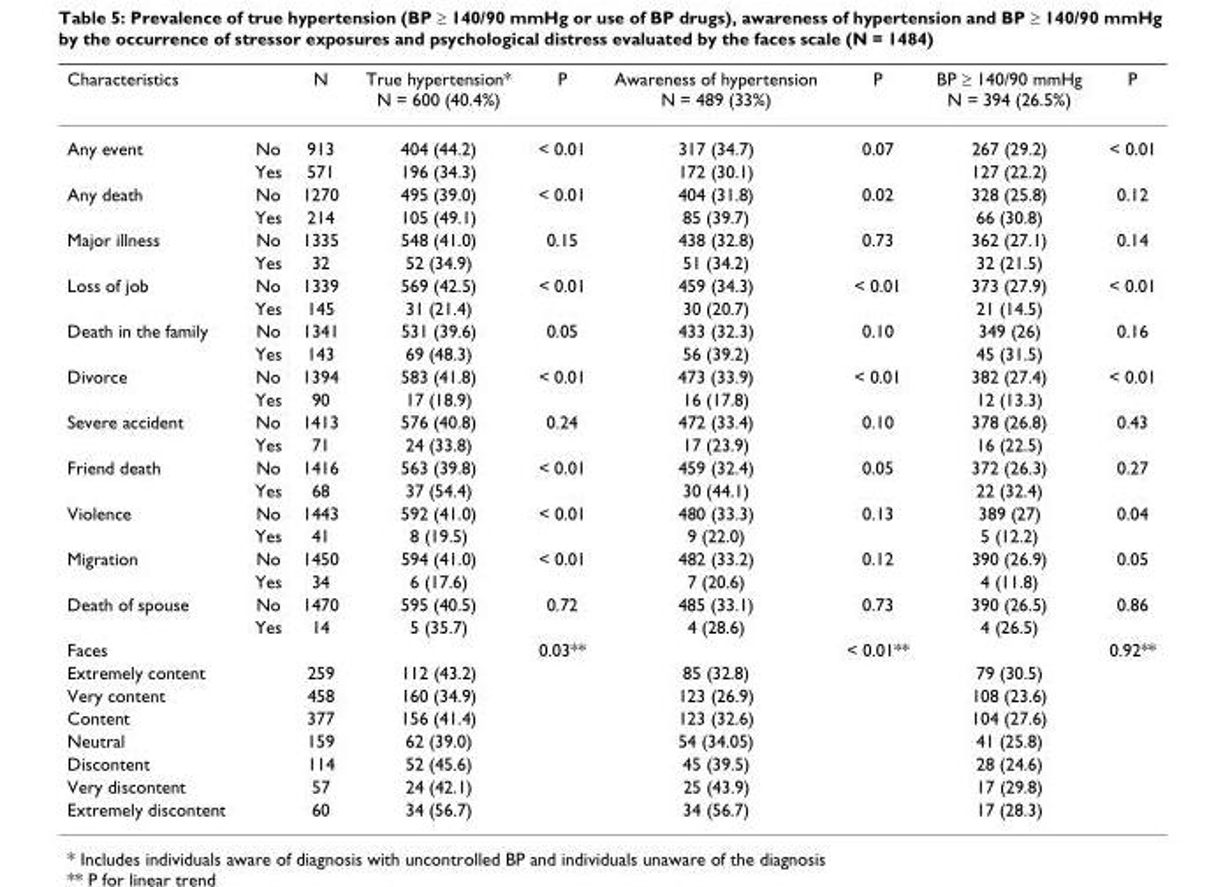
<table><thead><tr><td>Characteristics</td><td></td><td>N</td><td>True hypertension* N = 600 (40.4%)</td><td>P</td><td>Awareness of hypertension N = 489 (33%)</td><td>P</td><td>BP ≥ 140/90 mmHg N = 394 (26.5%)</td><td>P</td></tr></thead><tbody><tr><td rowspan="2">Any event</td><td>No</td><td>913</td><td>404 (44.2)</td><td>&lt; 0.01</td><td>317 (34.7)</td><td>0.07</td><td>267 (29.2)</td><td>&lt; 0.01</td></tr><tr><td>Yes</td><td>571</td><td>196 (34.3)</td><td></td><td>172 (30.1)</td><td></td><td>127 (22.2)</td><td></td></tr><tr><td rowspan="2">Any death</td><td>No</td><td>1270</td><td>495 (39.0)</td><td>&lt; 0.01</td><td>404 (31.8)</td><td>0.02</td><td>328 (25.8)</td><td>0.12</td></tr><tr><td>Yes</td><td>214</td><td>105 (49.1)</td><td></td><td>85 (39.7)</td><td></td><td>66 (30.8)</td><td></td></tr><tr><td rowspan="2">Major illness</td><td>No</td><td>1335</td><td>548 (41.0)</td><td>0.15</td><td>438 (32.8)</td><td>0.73</td><td>362 (27.1)</td><td>0.14</td></tr><tr><td>Yes</td><td>32</td><td>52 (34.9)</td><td></td><td>51 (34.2)</td><td></td><td>32 (21.5)</td><td></td></tr><tr><td rowspan="2">Loss of job</td><td>No</td><td>1339</td><td>569 (42.5)</td><td>&lt; 0.01</td><td>459 (34.3)</td><td>&lt; 0.01</td><td>373 (27.9)</td><td>&lt; 0.01</td></tr><tr><td>Yes</td><td>145</td><td>31 (21.4)</td><td></td><td>30 (20.7)</td><td></td><td>21 (14.5)</td><td></td></tr><tr><td rowspan="2">Death in the family</td><td>No</td><td>1341</td><td>531 (39.6)</td><td>0.05</td><td>433 (32.3)</td><td>0.10</td><td>349 (26)</td><td>0.16</td></tr><tr><td>Yes</td><td>143</td><td>69 (48.3)</td><td></td><td>56 (39.2)</td><td></td><td>45 (31.5)</td><td></td></tr><tr><td rowspan="2">Divorce</td><td>No</td><td>1394</td><td>583 (41.8)</td><td>&lt; 0.01</td><td>473 (33.9)</td><td>&lt; 0.01</td><td>382 (27.4)</td><td>&lt; 0.01</td></tr><tr><td>Yes</td><td>90</td><td>17 (18.9)</td><td></td><td>16 (17.8)</td><td></td><td>12 (13.3)</td><td></td></tr><tr><td rowspan="2">Severe accident</td><td>No</td><td>1413</td><td>576 (40.8)</td><td>0.24</td><td>472 (33.4)</td><td>0.10</td><td>378 (26.8)</td><td>0.43</td></tr><tr><td>Yes</td><td>71</td><td>24 (33.8)</td><td></td><td>17 (23.9)</td><td></td><td>16 (22.5)</td><td></td></tr><tr><td rowspan="2">Friend death</td><td>No</td><td>1416</td><td>563 (39.8)</td><td>&lt; 0.01</td><td>459 (32.4)</td><td>0.05</td><td>372 (26.3)</td><td>0.27</td></tr><tr><td>Yes</td><td>68</td><td>37 (54.4)</td><td></td><td>30 (44.1)</td><td></td><td>22 (32.4)</td><td></td></tr><tr><td rowspan="2">Violence</td><td>No</td><td>1443</td><td>592 (41.0)</td><td>&lt; 0.01</td><td>480 (33.3)</td><td>0.13</td><td>389 (27)</td><td>0.04</td></tr><tr><td>Yes</td><td>41</td><td>8 (19.5)</td><td></td><td>9 (22.0)</td><td></td><td>5 (12.2)</td><td></td></tr><tr><td rowspan="2">Migration</td><td>No</td><td>1450</td><td>594 (41.0)</td><td>&lt; 0.01</td><td>482 (33.2)</td><td>0.12</td><td>390 (26.9)</td><td>0.05</td></tr><tr><td>Yes</td><td>34</td><td>6 (17.6)</td><td></td><td>7 (20.6)</td><td></td><td>4 (11.8)</td><td></td></tr><tr><td rowspan="2">Death of spouse</td><td>No</td><td>1470</td><td>595 (40.5)</td><td>0.72</td><td>485 (33.1)</td><td>0.73</td><td>390 (26.5)</td><td>0.86</td></tr><tr><td>Yes</td><td>14</td><td>5 (35.7)</td><td></td><td>4 (28.6)</td><td></td><td>4 (26.5)</td><td></td></tr><tr><td>Faces</td><td></td><td></td><td></td><td>0.03**</td><td></td><td>&lt; 0.01**</td><td></td><td>0.92**</td></tr><tr><td>Extremely content</td><td></td><td>259</td><td>112 (43.2)</td><td></td><td>85 (32.8)</td><td></td><td>79 (30.5)</td><td></td></tr><tr><td>Very content</td><td></td><td>458</td><td>160 (34.9)</td><td></td><td>123 (26.9)</td><td></td><td>108 (23.6)</td><td></td></tr><tr><td>Content</td><td></td><td>377</td><td>156 (41.4)</td><td></td><td>123 (32.6)</td><td></td><td>104 (27.6)</td><td></td></tr><tr><td>Neutral</td><td></td><td>159</td><td>62 (39.0)</td><td></td><td>54 (34.05)</td><td></td><td>41 (25.8)</td><td></td></tr><tr><td>Discontent</td><td></td><td>114</td><td>52 (45.6)</td><td></td><td>45 (39.5)</td><td></td><td>28 (24.6)</td><td></td></tr><tr><td>Very discontent</td><td></td><td>57</td><td>24 (42.1)</td><td></td><td>25 (43.9)</td><td></td><td>17 (29.8)</td><td></td></tr><tr><td>Extremely discontent</td><td></td><td>60</td><td>34 (56.7)</td><td></td><td>34 (56.7)</td><td></td><td>17 (28.3)</td><td></td></tr></tbody></table>